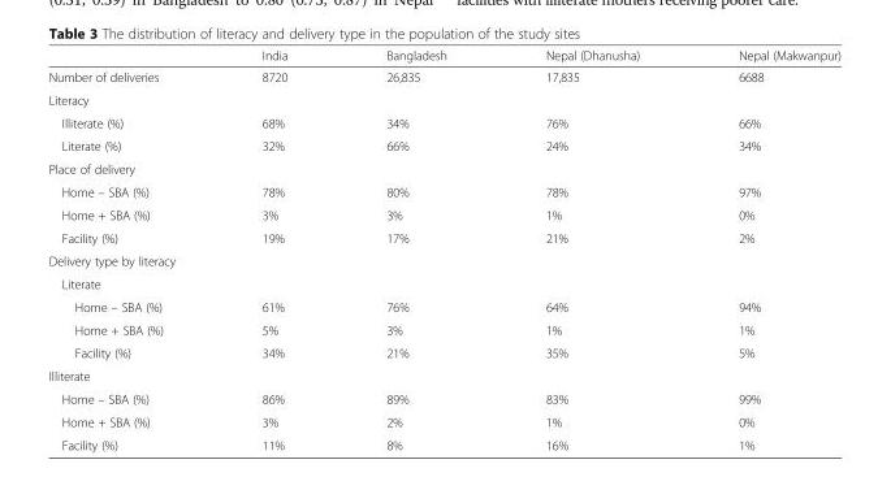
<table><thead><tr><td></td><td>India</td><td>Bangladesh</td><td>Nepal (Dhanusha)</td><td>Nepal (Makwanpur)</td></tr></thead><tbody><tr><td>Number of deliveries</td><td>8720</td><td>26,835</td><td>17,835</td><td>6688</td></tr><tr><td colspan="5">Literacy</td></tr><tr><td>Illiterate (%)</td><td>68%</td><td>34%</td><td>76%</td><td>66%</td></tr><tr><td>Literate (%)</td><td>32%</td><td>66%</td><td>24%</td><td>34%</td></tr><tr><td colspan="5">Place of delivery</td></tr><tr><td>Home – SBA (%)</td><td>78%</td><td>80%</td><td>78%</td><td>97%</td></tr><tr><td>Home + SBA (%)</td><td>3%</td><td>3%</td><td>1%</td><td>0%</td></tr><tr><td>Facility (%)</td><td>19%</td><td>17%</td><td>21%</td><td>2%</td></tr><tr><td colspan="5">Delivery type by literacy</td></tr><tr><td colspan="5">Literate</td></tr><tr><td>Home – SBA (%)</td><td>61%</td><td>76%</td><td>64%</td><td>94%</td></tr><tr><td>Home + SBA (%)</td><td>5%</td><td>3%</td><td>1%</td><td>1%</td></tr><tr><td>Facility (%)</td><td>34%</td><td>21%</td><td>35%</td><td>5%</td></tr><tr><td colspan="5">Illiterate</td></tr><tr><td>Home – SBA (%)</td><td>86%</td><td>89%</td><td>83%</td><td>99%</td></tr><tr><td>Home + SBA (%)</td><td>3%</td><td>2%</td><td>1%</td><td>0%</td></tr><tr><td>Facility (%)</td><td>11%</td><td>8%</td><td>16%</td><td>1%</td></tr></tbody></table>